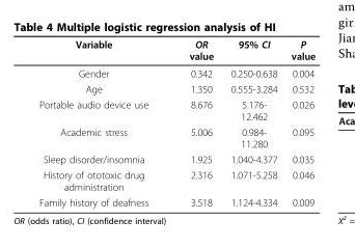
<table><thead><tr><td>Variable</td><td>OR value</td><td>95% CI</td><td>P value</td></tr></thead><tbody><tr><td>Gender</td><td>0.342</td><td>0.250-0.638</td><td>0.004</td></tr><tr><td>Age</td><td>1.350</td><td>0.555-3.284</td><td>0.532</td></tr><tr><td>Portable audio device use</td><td>8.676</td><td>5.176- 12.462</td><td>0.026</td></tr><tr><td>Academic stress</td><td>5.006</td><td>0.984- 11.280</td><td>0.095</td></tr><tr><td>Sleep disorder/insomnia</td><td>1.925</td><td>1.040-4.377</td><td>0.035</td></tr><tr><td>History of ototoxic drug administration</td><td>2.316</td><td>1.071-5.258</td><td>0.046</td></tr><tr><td>Family history of deafness</td><td>3.518</td><td>1.124-4.334</td><td>0.009</td></tr></tbody></table>